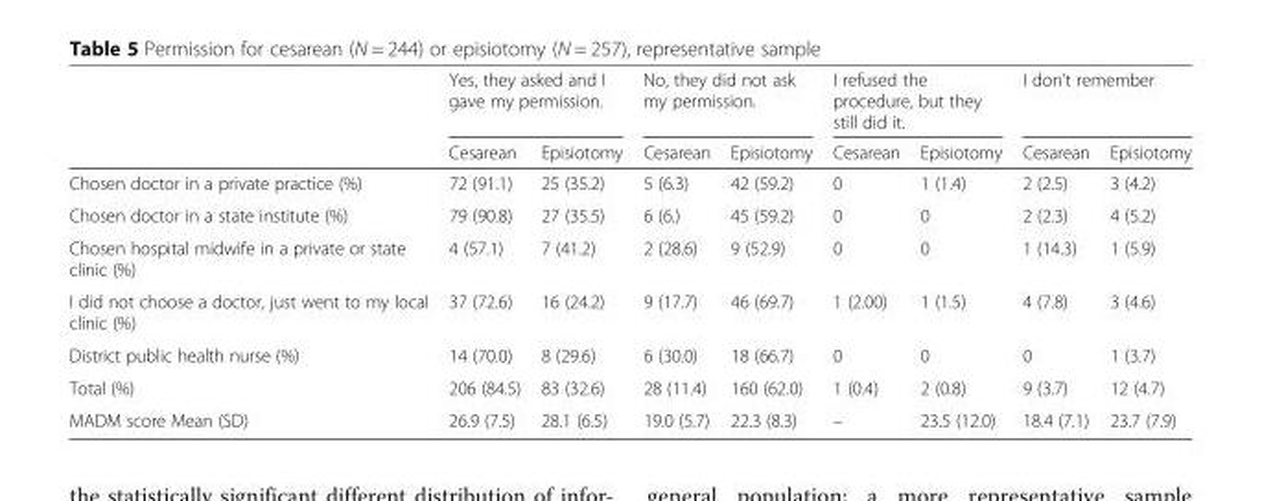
<table><thead><tr><td rowspan="2"></td><td colspan="2">Yes, they asked and I gave my permission.</td><td colspan="2">No, they did not ask my permission.</td><td colspan="2">I refused the procedure, but they still did it.</td><td colspan="2">I don’t remember</td></tr><tr><td>Cesarean</td><td>Episiotomy</td><td>Cesarean</td><td>Episiotomy</td><td>Cesarean</td><td>Episiotomy</td><td>Cesarean</td><td>Episiotomy</td></tr></thead><tbody><tr><td>Chosen doctor in a private practice (%)</td><td>72 (91.1)</td><td>25 (35.2)</td><td>5 (6.3)</td><td>42 (59.2)</td><td>0</td><td>1 (1.4)</td><td>2 (2.5)</td><td>3 (4.2)</td></tr><tr><td>Chosen doctor in a state institute (%)</td><td>79 (90.8)</td><td>27 (35.5)</td><td>6 (6.)</td><td>45 (59.2)</td><td>0</td><td>0</td><td>2 (2.3)</td><td>4 (5.2)</td></tr><tr><td>Chosen hospital midwife in a private or state clinic (%)</td><td>4 (57.1)</td><td>7 (41.2)</td><td>2 (28.6)</td><td>9 (52.9)</td><td>0</td><td>0</td><td>1 (14.3)</td><td>1 (5.9)</td></tr><tr><td>I did not choose a doctor, just went to my local clinic (%)</td><td>37 (72.6)</td><td>16 (24.2)</td><td>9 (17.7)</td><td>46 (69.7)</td><td>1 (2.00)</td><td>1 (1.5)</td><td>4 (7.8)</td><td>3 (4.6)</td></tr><tr><td>District public health nurse (%)</td><td>14 (70.0)</td><td>8 (29.6)</td><td>6 (30.0)</td><td>18 (66.7)</td><td>0</td><td>0</td><td>0</td><td>1 (3.7)</td></tr><tr><td>Total (%)</td><td>206 (84.5)</td><td>83 (32.6)</td><td>28 (11.4)</td><td>160 (62.0)</td><td>1 (0.4)</td><td>2 (0.8)</td><td>9 (3.7)</td><td>12 (4.7)</td></tr><tr><td>MADM score Mean (SD)</td><td>26.9 (7.5)</td><td>28.1 (6.5)</td><td>19.0 (5.7)</td><td>22.3 (8.3)</td><td>–</td><td>23.5 (12.0)</td><td>18.4 (7.1)</td><td>23.7 (7.9)</td></tr></tbody></table>